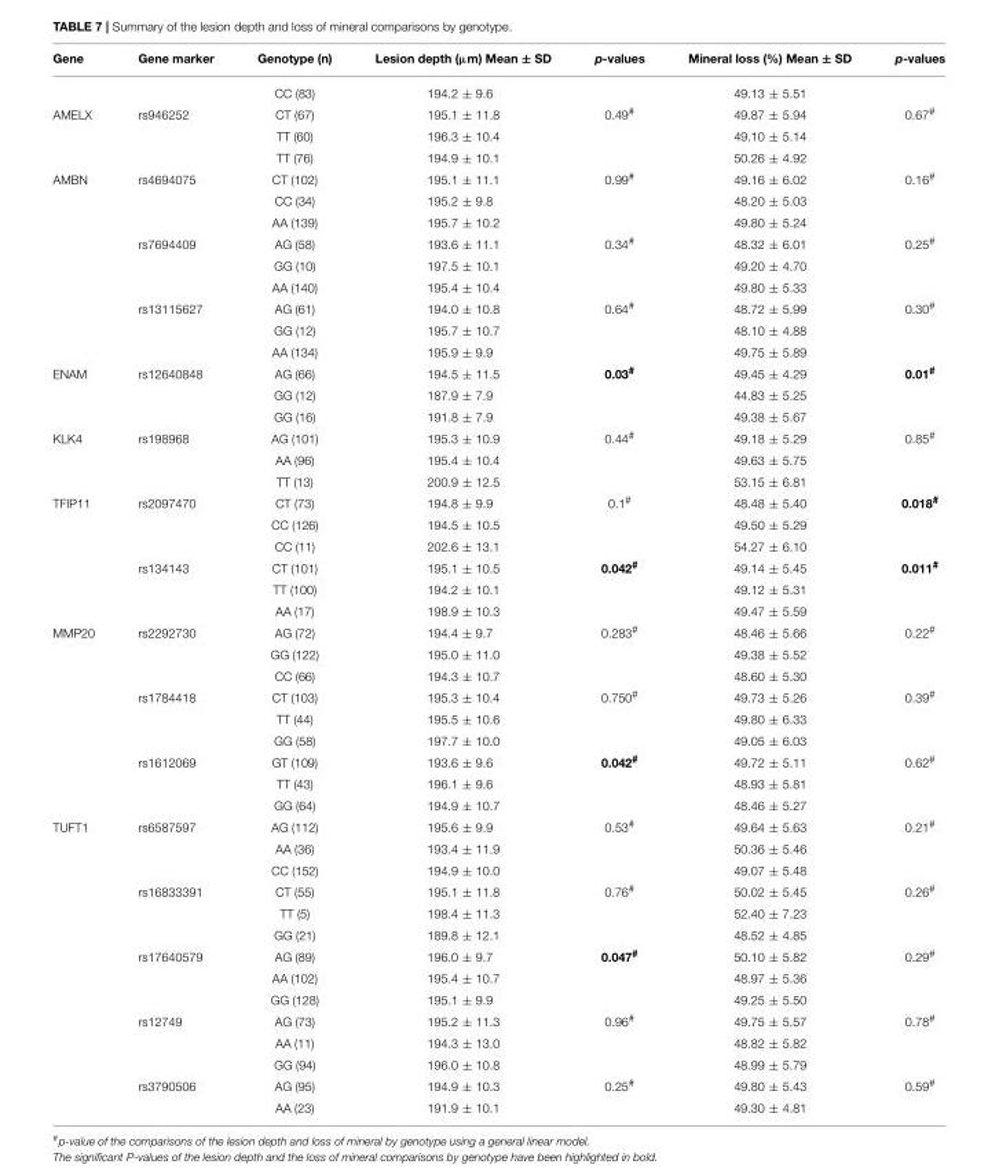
<table><thead><tr><td>Gene</td><td>Gene marker</td><td>Genotype (n)</td><td>Lesion depth (µm) Mean ± SD</td><td>p-values</td><td>Mineral loss (%) Mean ± SD</td><td>p-values</td></tr></thead><tbody><tr><td></td><td></td><td>CC (83)</td><td>194.2 ± 9.6</td><td></td><td>49.13 ± 5.51</td><td></td></tr><tr><td rowspan="3">AMELX</td><td>rs946252</td><td>CT (67)</td><td>195.1 ± 11.8</td><td>0.49<sup>#</sup></td><td>49.87 ± 5.94</td><td>0.67<sup>#</sup></td></tr><tr><td></td><td>TT (60)</td><td>196.3 ± 10.4</td><td></td><td>49.10 ± 5.14</td><td></td></tr><tr><td></td><td>TT (76)</td><td>194.9 ± 10.1</td><td></td><td>50.26 ± 4.92</td><td></td></tr><tr><td rowspan="9">AMBN</td><td>rs4694075</td><td>CT (102)</td><td>195.1 ± 11.1</td><td>0.99<sup>#</sup></td><td>49.16 ± 6.02</td><td>0.16<sup>#</sup></td></tr><tr><td></td><td>CC (34)</td><td>195.2 ± 9.8</td><td></td><td>48.20 ± 5.03</td><td></td></tr><tr><td></td><td>AA (139)</td><td>195.7 ± 10.2</td><td></td><td>49.80 ± 5.24</td><td></td></tr><tr><td>rs7694409</td><td>AG (58)</td><td>193.6 ± 11.1</td><td>0.34<sup>#</sup></td><td>48.32 ± 6.01</td><td>0.25<sup>#</sup></td></tr><tr><td></td><td>GG (10)</td><td>197.5 ± 10.1</td><td></td><td>49.20 ± 4.70</td><td></td></tr><tr><td></td><td>AA (140)</td><td>195.4 ± 10.4</td><td></td><td>49.80 ± 5.33</td><td></td></tr><tr><td>rs13115627</td><td>AG (61)</td><td>194.0 ± 10.8</td><td>0.64<sup>#</sup></td><td>48.72 ± 5.99</td><td>0.30<sup>#</sup></td></tr><tr><td></td><td>GG (12)</td><td>195.7 ± 10.7</td><td></td><td>48.10 ± 4.88</td><td></td></tr><tr><td></td><td>AA (134)</td><td>195.9 ± 9.9</td><td></td><td>49.75 ± 5.89</td><td></td></tr><tr><td rowspan="3">ENAM</td><td>rs12640848</td><td>AG (66)</td><td>194.5 ± 11.5</td><td>0.03<sup>#</sup></td><td>49.45 ± 4.29</td><td>0.01<sup>#</sup></td></tr><tr><td></td><td>GG (12)</td><td>187.9 ± 7.9</td><td></td><td>44.83 ± 5.25</td><td></td></tr><tr><td></td><td>GG (16)</td><td>191.8 ± 7.9</td><td></td><td>49.38 ± 5.67</td><td></td></tr><tr><td rowspan="3">KLK4</td><td>rs198968</td><td>AG (101)</td><td>195.3 ± 10.9</td><td>0.44<sup>#</sup></td><td>49.18 ± 5.29</td><td>0.85<sup>#</sup></td></tr><tr><td></td><td>AA (96)</td><td>195.4 ± 10.4</td><td></td><td>49.63 ± 5.75</td><td></td></tr><tr><td></td><td>TT (13)</td><td>200.9 ± 12.5</td><td></td><td>53.15 ± 6.81</td><td></td></tr><tr><td rowspan="6">TFIP11</td><td>rs2097470</td><td>CT (73)</td><td>194.8 ± 9.9</td><td>0.1<sup>#</sup></td><td>48.48 ± 5.40</td><td>0.018<sup>#</sup></td></tr><tr><td></td><td>CC (126)</td><td>194.5 ± 10.5</td><td></td><td>49.50 ± 5.29</td><td></td></tr><tr><td></td><td>CC (11)</td><td>202.6 ± 13.1</td><td></td><td>54.27 ± 6.10</td><td></td></tr><tr><td>rs134143</td><td>CT (101)</td><td>195.1 ± 10.5</td><td>0.042<sup>#</sup></td><td>49.14 ± 5.45</td><td>0.011<sup>#</sup></td></tr><tr><td></td><td>TT (100)</td><td>194.2 ± 10.1</td><td></td><td>49.12 ± 5.31</td><td></td></tr><tr><td></td><td>AA (17)</td><td>198.9 ± 10.3</td><td></td><td>49.47 ± 5.59</td><td></td></tr><tr><td rowspan="9">MMP20</td><td>rs2292730</td><td>AG (72)</td><td>194.4 ± 9.7</td><td>0.283<sup>#</sup></td><td>48.46 ± 5.66</td><td>0.22<sup>#</sup></td></tr><tr><td></td><td>GG (122)</td><td>195.0 ± 11.0</td><td></td><td>49.38 ± 5.52</td><td></td></tr><tr><td></td><td>CC (66)</td><td>194.3 ± 10.7</td><td></td><td>48.60 ± 5.30</td><td></td></tr><tr><td>rs1784418</td><td>CT (103)</td><td>195.3 ± 10.4</td><td>0.750<sup>#</sup></td><td>49.73 ± 5.26</td><td>0.39<sup>#</sup></td></tr><tr><td></td><td>TT (44)</td><td>195.5 ± 10.6</td><td></td><td>49.80 ± 6.33</td><td></td></tr><tr><td></td><td>GG (58)</td><td>197.7 ± 10.0</td><td></td><td>49.05 ± 6.03</td><td></td></tr><tr><td>rs1612069</td><td>GT (109)</td><td>193.6 ± 9.6</td><td>0.042<sup>#</sup></td><td>49.72 ± 5.11</td><td>0.62<sup>#</sup></td></tr><tr><td></td><td>TT (43)</td><td>196.1 ± 9.6</td><td></td><td>48.93 ± 5.81</td><td></td></tr><tr><td></td><td>GG (64)</td><td>194.9 ± 10.7</td><td></td><td>48.46 ± 5.27</td><td></td></tr><tr><td rowspan="14">TUFT1</td><td>rs6587597</td><td>AG (112)</td><td>195.6 ± 9.9</td><td>0.53<sup>#</sup></td><td>49.64 ± 5.63</td><td>0.21<sup>#</sup></td></tr><tr><td></td><td>AA (36)</td><td>193.4 ± 11.9</td><td></td><td>50.36 ± 5.46</td><td></td></tr><tr><td></td><td>CC (152)</td><td>194.9 ± 10.0</td><td></td><td>49.07 ± 5.48</td><td></td></tr><tr><td>rs16833391</td><td>CT (55)</td><td>195.1 ± 11.8</td><td>0.76<sup>#</sup></td><td>50.02 ± 5.45</td><td>0.26<sup>#</sup></td></tr><tr><td></td><td>TT (5)</td><td>198.4 ± 11.3</td><td></td><td>52.40 ± 7.23</td><td></td></tr><tr><td></td><td>GG (21)</td><td>189.8 ± 12.1</td><td></td><td>48.52 ± 4.85</td><td></td></tr><tr><td>rs17640579</td><td>AG (89)</td><td>196.0 ± 9.7</td><td>0.047<sup>#</sup></td><td>50.10 ± 5.82</td><td>0.29<sup>#</sup></td></tr><tr><td></td><td>AA (102)</td><td>195.4 ± 10.7</td><td></td><td>48.97 ± 5.36</td><td></td></tr><tr><td></td><td>GG (128)</td><td>195.1 ± 9.9</td><td></td><td>49.25 ± 5.50</td><td></td></tr><tr><td>rs12749</td><td>AG (73)</td><td>195.2 ± 11.3</td><td>0.96<sup>#</sup></td><td>49.75 ± 5.57</td><td>0.78<sup>#</sup></td></tr><tr><td></td><td>AA (11)</td><td>194.3 ± 13.0</td><td></td><td>48.82 ± 5.82</td><td></td></tr><tr><td></td><td>GG (94)</td><td>196.0 ± 10.8</td><td></td><td>48.99 ± 5.79</td><td></td></tr><tr><td>rs3790506</td><td>AG (95)</td><td>194.9 ± 10.3</td><td>0.25<sup>#</sup></td><td>49.80 ± 5.43</td><td>0.59<sup>#</sup></td></tr><tr><td></td><td>AA (23)</td><td>191.9 ± 10.1</td><td></td><td>49.30 ± 4.81</td><td></td></tr></tbody></table>